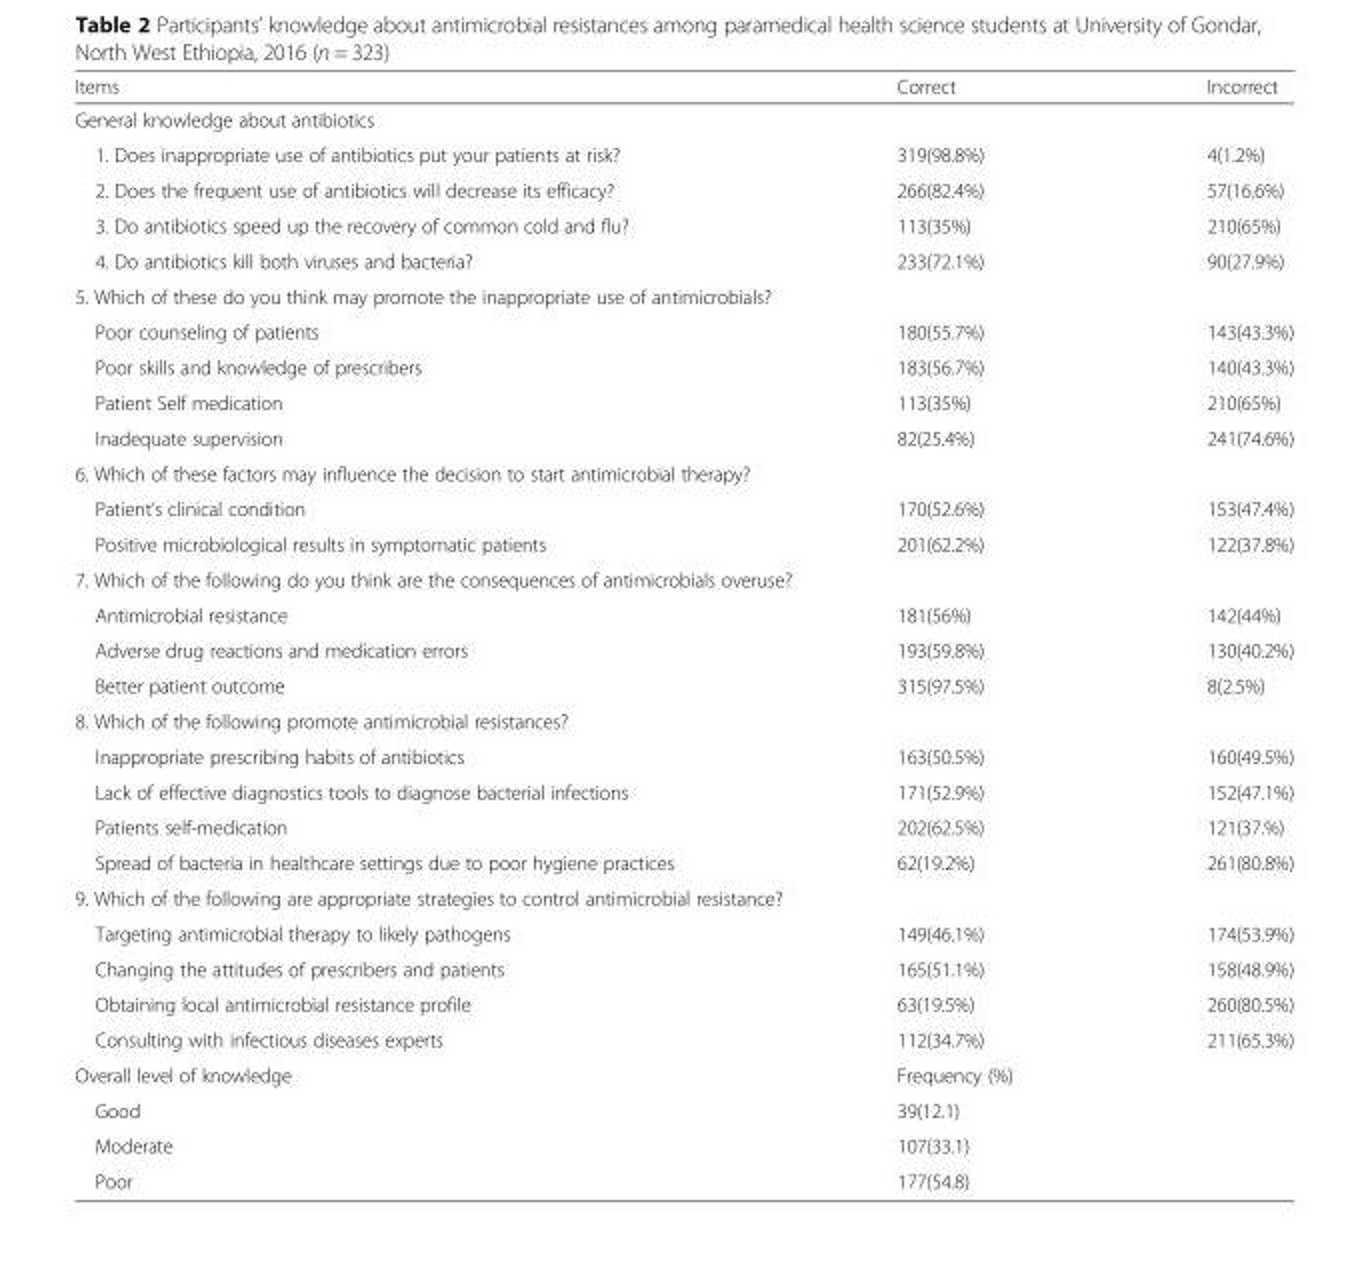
<table><thead><tr><td>Items</td><td>Correct</td><td>Incorrect</td></tr></thead><tbody><tr><td colspan="3">General knowledge about antibiotics</td></tr><tr><td>1. Does inappropriate use of antibiotics put your patients at risk?</td><td>319(98.8%)</td><td>4(1.2%)</td></tr><tr><td>2. Does the frequent use of antibiotics will decrease its efficacy?</td><td>266(82.4%)</td><td>57(16.6%)</td></tr><tr><td>3. Do antibiotics speed up the recovery of common cold and flu?</td><td>113(35%)</td><td>210(65%)</td></tr><tr><td>4. Do antibiotics kill both viruses and bacteria?</td><td>233(72.1%)</td><td>90(27.9%)</td></tr><tr><td colspan="3">5. Which of these do you think may promote the inappropriate use of antimicrobials?</td></tr><tr><td>Poor counseling of patients</td><td>180(55.7%)</td><td>143(43.3%)</td></tr><tr><td>Poor skills and knowledge of prescribers</td><td>183(56.7%)</td><td>140(43.3%)</td></tr><tr><td>Patient Self medication</td><td>113(35%)</td><td>210(65%)</td></tr><tr><td>Inadequate supervision</td><td>82(25.4%)</td><td>241(74.6%)</td></tr><tr><td colspan="3">6. Which of these factors may influence the decision to start antimicrobial therapy?</td></tr><tr><td>Patient’s clinical condition</td><td>170(52.6%)</td><td>153(47.4%)</td></tr><tr><td>Positive microbiological results in symptomatic patients</td><td>201(62.2%)</td><td>122(37.8%)</td></tr><tr><td colspan="3">7. Which of the following do you think are the consequences of antimicrobials overuse?</td></tr><tr><td>Antimicrobial resistance</td><td>181(56%)</td><td>142(44%)</td></tr><tr><td>Adverse drug reactions and medication errors</td><td>193(59.8%)</td><td>130(40.2%)</td></tr><tr><td>Better patient outcome</td><td>315(97.5%)</td><td>8(2.5%)</td></tr><tr><td colspan="3">8. Which of the following promote antimicrobial resistances?</td></tr><tr><td>Inappropriate prescribing habits of antibiotics</td><td>163(50.5%)</td><td>160(49.5%)</td></tr><tr><td>Lack of effective diagnostics tools to diagnose bacterial infections</td><td>171(52.9%)</td><td>152(47.1%)</td></tr><tr><td>Patients self-medication</td><td>202(62.5%)</td><td>121(37.%)</td></tr><tr><td>Spread of bacteria in healthcare settings due to poor hygiene practices</td><td>62(19.2%)</td><td>261(80.8%)</td></tr><tr><td colspan="3">9. Which of the following are appropriate strategies to control antimicrobial resistance?</td></tr><tr><td>Targeting antimicrobial therapy to likely pathogens</td><td>149(46.1%)</td><td>174(53.9%)</td></tr><tr><td>Changing the attitudes of prescribers and patients</td><td>165(51.1%)</td><td>158(48.9%)</td></tr><tr><td>Obtaining local antimicrobial resistance profile</td><td>63(19.5%)</td><td>260(80.5%)</td></tr><tr><td>Consulting with infectious diseases experts</td><td>112(34.7%)</td><td>211(65.3%)</td></tr><tr><td>Overall level of knowledge</td><td colspan="2">Frequency (%)</td></tr><tr><td>Good</td><td colspan="2">39(12.1)</td></tr><tr><td>Moderate</td><td colspan="2">107(33.1)</td></tr><tr><td>Poor</td><td colspan="2">177(54.8)</td></tr></tbody></table>